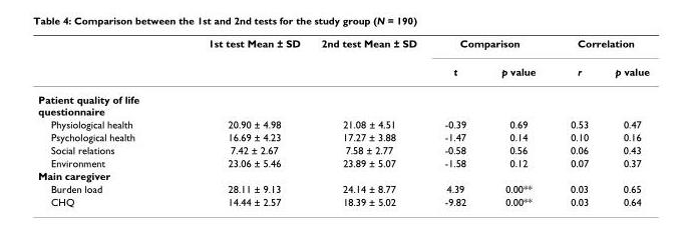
<table><thead><tr><td rowspan="2"></td><td rowspan="2">1st test Mean ± SD</td><td rowspan="2">2nd test Mean ± SD</td><td colspan="2">Comparison</td><td colspan="2">Correlation</td></tr><tr><td>t</td><td>p value</td><td>r</td><td>p value</td></tr></thead><tbody><tr><td colspan="7">Patient quality of life questionnaire</td></tr><tr><td>Physiological health</td><td>20.90 ± 4.98</td><td>21.08 ± 4.51</td><td>-0.39</td><td>0.69</td><td>0.53</td><td>0.47</td></tr><tr><td>Psychological health</td><td>16.69 ± 4.23</td><td>17.27 ± 3.88</td><td>-1.47</td><td>0.14</td><td>0.10</td><td>0.16</td></tr><tr><td>Social relations</td><td>7.42 ± 2.67</td><td>7.58 ± 2.77</td><td>-0.58</td><td>0.56</td><td>0.06</td><td>0.43</td></tr><tr><td>Environment</td><td>23.06 ± 5.46</td><td>23.89 ± 5.07</td><td>-1.58</td><td>0.12</td><td>0.07</td><td>0.37</td></tr><tr><td colspan="7">Main caregiver</td></tr><tr><td>Burden load</td><td>28.11 ± 9.13</td><td>24.14 ± 8.77</td><td>4.39</td><td>0.00**</td><td>0.03</td><td>0.65</td></tr><tr><td>CHQ</td><td>14.44 ± 2.57</td><td>18.39 ± 5.02</td><td>-9.82</td><td>0.00**</td><td>0.03</td><td>0.64</td></tr></tbody></table>